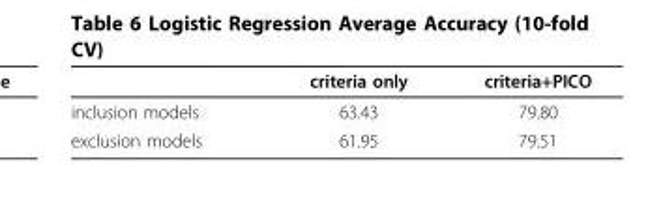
<table><thead><tr><td></td><td>criteria only</td><td>criteria+PICO</td></tr></thead><tbody><tr><td>inclusion models</td><td>63.43</td><td>79.80</td></tr><tr><td>exclusion models</td><td>61.95</td><td>79.51</td></tr></tbody></table>